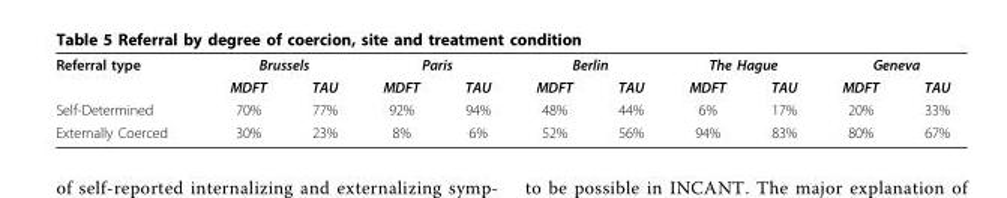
<table><tbody><tr><td rowspan="2">Referral type</td><td colspan="2">Brussels</td><td colspan="2">Paris</td><td colspan="2">Berlin</td><td colspan="2">The Hague</td><td colspan="2">Geneva</td></tr><tr><td>MDFT</td><td>TAU</td><td>MDFT</td><td>TAU</td><td>MDFT</td><td>TAU</td><td>MDFT</td><td>TAU</td><td>MDFT</td><td>TAU</td></tr><tr><td>Self-Determined</td><td>70%</td><td>77%</td><td>92%</td><td>94%</td><td>48%</td><td>44%</td><td>6%</td><td>17%</td><td>20%</td><td>33%</td></tr><tr><td>Externally Coerced</td><td>30%</td><td>23%</td><td>8%</td><td>6%</td><td>52%</td><td>56%</td><td>94%</td><td>83%</td><td>80%</td><td>67%</td></tr></tbody></table>